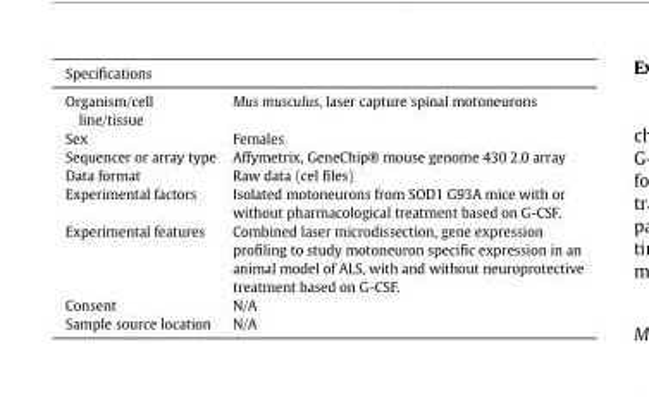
<table><thead><tr><td colspan="2">Specifications</td></tr><tr><td>Organism/cell line/tissue</td><td>Mus musculus, laser capture spinal motoneurons</td></tr></thead><tbody><tr><td>Sex</td><td>Females</td></tr><tr><td>Sequencer or array type</td><td>Affymetrix, GeneChip® mouse genome 430 2.0 array</td></tr><tr><td>Data format</td><td>Raw data (cel files)</td></tr><tr><td>Experimental factors</td><td>Isolated motoneurons from SOD1 G93A mice with or without pharmacological treatment based on G-CSF.</td></tr><tr><td>Experimental features</td><td>Combined laser microdissection, gene expression profiling to study motoneuron specific expression in an animal model of ALS, with and without neuroprotective treatment based on G-CSF.</td></tr><tr><td>Consent</td><td>N/A</td></tr><tr><td>Sample source location</td><td>N/A</td></tr></tbody></table>